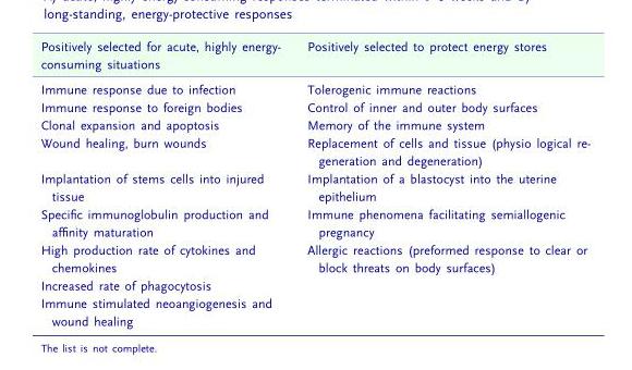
<table><thead><tr><td>Positively selected for acute, highly energy- consuming situations</td><td>Positively selected to protect energy stores</td></tr></thead><tbody><tr><td>Immune response due to infection</td><td>Tolerogenic immune reactions</td></tr><tr><td>Immune response to foreign bodies</td><td>Control of inner and outer body surfaces</td></tr><tr><td>Clonal expansion and apoptosis</td><td>Memory of the immune system</td></tr><tr><td>Wound healing, burn wounds</td><td>Replacement of cells and tissue (physio logical re- generation and degeneration)</td></tr><tr><td>Implantation of stems cells into injured tissue</td><td>Implantation of a blastocyst into the uterine epithelium</td></tr><tr><td>Specific immunoglobulin production and affinity maturation</td><td>Immune phenomena facilitating semiallogenic pregnancy</td></tr><tr><td>High production rate of cytokines and chemokines</td><td>Allergic reactions (preformed response to clear or block threats on body surfaces)</td></tr><tr><td colspan="2">Increased rate of phagocytosis</td></tr><tr><td>Immune stimulated neoangiogenesis and wound healing</td><td></td></tr></tbody></table>